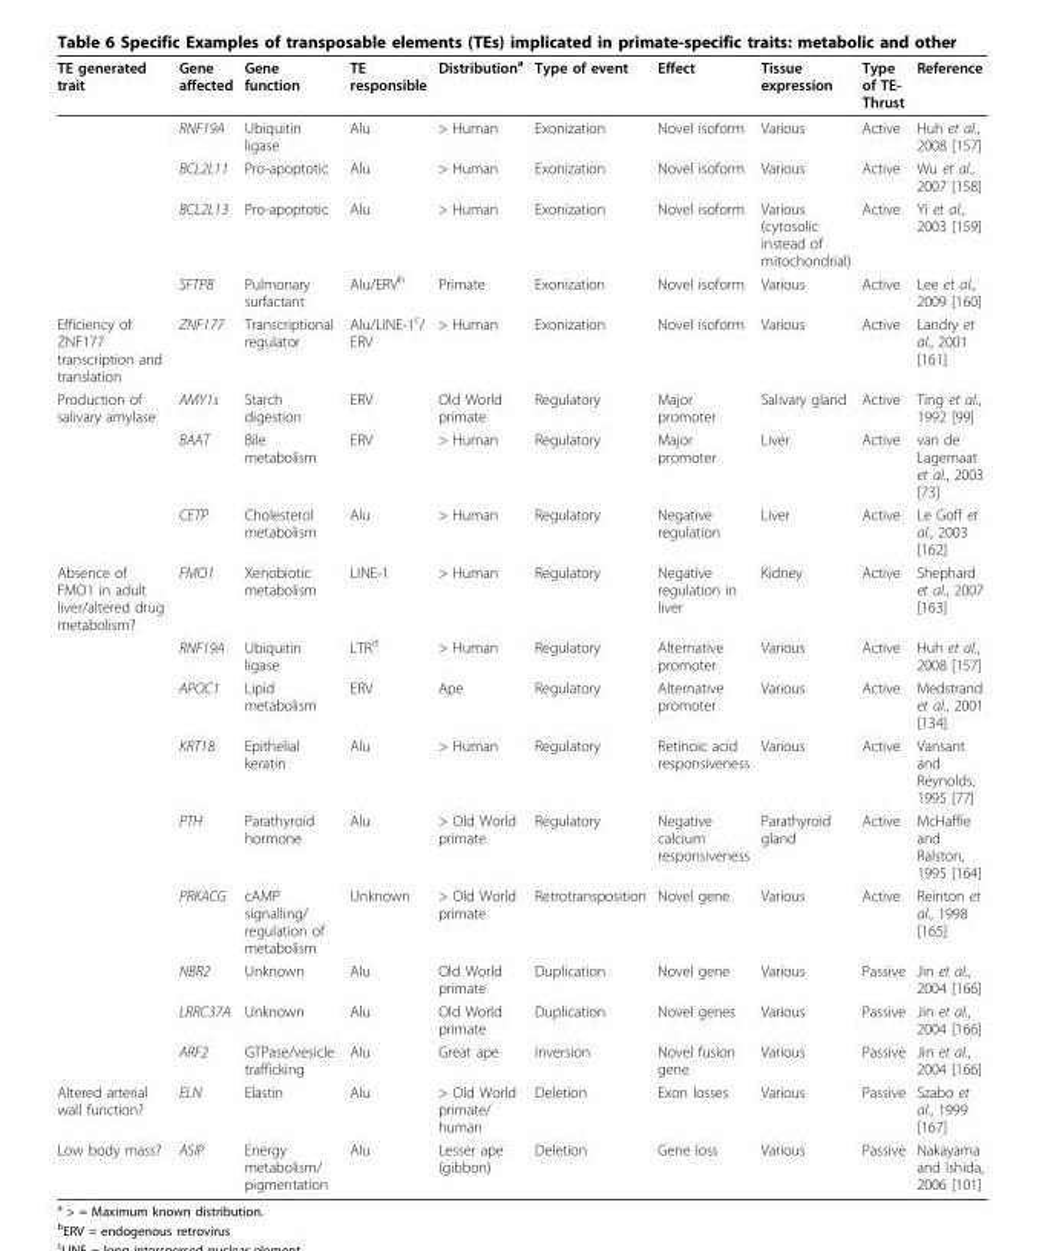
<table><thead><tr><td>TE generated trait</td><td>Gene affected</td><td>Gene function</td><td>TE responsible</td><td>Distribution<sup>a</sup></td><td>Type of event</td><td>Effect</td><td>Tissue expression</td><td>Type of TE- Thrust</td><td>Reference</td></tr></thead><tbody><tr><td></td><td>RNF19A</td><td>Ubiquitin ligase</td><td>Alu</td><td>&gt; Human</td><td>Exonization</td><td>Novel isoform</td><td>Various</td><td>Active</td><td>Huh et al., 2008 [157]</td></tr><tr><td></td><td>BCL2L11</td><td>Pro-apoptotic</td><td>Alu</td><td>&gt; Human</td><td>Exonization</td><td>Novel isoform</td><td>Various</td><td>Active</td><td>Wu et al., 2007 [158]</td></tr><tr><td></td><td>BCL2L13</td><td>Pro-apoptotic</td><td>Alu</td><td>&gt; Human</td><td>Exonization</td><td>Novel isoform</td><td>Various (cytosolic instead of mitochondrial)</td><td>Active</td><td>Yi et al., 2003 [159]</td></tr><tr><td></td><td>SFTPB</td><td>Pulmonary surfactant</td><td>Alu/ERV<sup>b</sup></td><td>Primate</td><td>Exonization</td><td>Novel isoform</td><td>Various</td><td>Active</td><td>Lee et al., 2009 [160]</td></tr><tr><td>Efficiency of ZNF177 transcription and translation</td><td>ZNF177</td><td>Transcriptional regulator</td><td>Alu/LINE-1<sup>c</sup>/ ERV</td><td>&gt; Human</td><td>Exonization</td><td>Novel isoform</td><td>Various</td><td>Active</td><td>Landry et al., 2001 [161]</td></tr><tr><td rowspan="3">Production of salivary amylase</td><td>AMY1s</td><td>Starch digestion</td><td>ERV</td><td>Old World primate</td><td>Regulatory</td><td>Major promoter</td><td>Salivary gland</td><td>Active</td><td>Ting et al., 1992 [99]</td></tr><tr><td>BAAT</td><td>Bile metabolism</td><td>ERV</td><td>&gt; Human</td><td>Regulatory</td><td>Major promoter</td><td>Liver</td><td>Active</td><td>van de Lagemaat et al., 2003 [73]</td></tr><tr><td>CETP</td><td>Cholesterol metabolism</td><td>Alu</td><td>&gt; Human</td><td>Regulatory</td><td>Negative regulation</td><td>Liver</td><td>Active</td><td>Le Goff et al., 2003 [162]</td></tr><tr><td rowspan="9">Absence of FMO1 in adult liver/altered drug metabolism?</td><td>FMO1</td><td>Xenobiotic metabolism</td><td>LINE-1</td><td>&gt; Human</td><td>Regulatory</td><td>Negative regulation in liver</td><td>Kidney</td><td>Active</td><td>Shephard et al., 2007 [163]</td></tr><tr><td>RNF19A</td><td>Ubiquitin ligase</td><td>LTR<sup>d</sup></td><td>&gt; Human</td><td>Regulatory</td><td>Alternative promoter</td><td>Various</td><td>Active</td><td>Huh et al., 2008 [157]</td></tr><tr><td>APOC1</td><td>Lipid metabolism</td><td>ERV</td><td>Ape</td><td>Regulatory</td><td>Alternative promoter</td><td>Various</td><td>Active</td><td>Medstrand et al., 2001 [134]</td></tr><tr><td>KRT18</td><td>Epithelial keratin</td><td>Alu</td><td>&gt; Human</td><td>Regulatory</td><td>Retinoic acid responsiveness</td><td>Various</td><td>Active</td><td>Vansant and Reynolds, 1995 [77]</td></tr><tr><td>PTH</td><td>Parathyroid hormone</td><td>Alu</td><td>&gt; Old World primate</td><td>Regulatory</td><td>Negative calcium responsiveness</td><td>Parathyroid gland</td><td>Active</td><td>McHaffie and Ralston, 1995 [164]</td></tr><tr><td>PRKACG</td><td>cAMP signalling/ regulation of metabolism</td><td>Unknown</td><td>&gt; Old World primate</td><td>Retrotransposition</td><td>Novel gene</td><td>Various</td><td>Active</td><td>Reinton et al., 1998 [165]</td></tr><tr><td>NBR2</td><td>Unknown</td><td>Alu</td><td>Old World primate</td><td>Duplication</td><td>Novel gene</td><td>Various</td><td>Passive</td><td>Jin et al., 2004 [166]</td></tr><tr><td>LRRC37A</td><td>Unknown</td><td>Alu</td><td>Old World primate</td><td>Duplication</td><td>Novel genes</td><td>Various</td><td>Passive</td><td>Jin et al., 2004 [166]</td></tr><tr><td>ARF2</td><td>GTPase/vesicle trafficking</td><td>Alu</td><td>Great ape</td><td>Inversion</td><td>Novel fusion gene</td><td>Various</td><td>Passive</td><td>Jin et al., 2004 [166]</td></tr><tr><td>Altered arterial wall function?</td><td>ELN</td><td>Elastin</td><td>Alu</td><td>&gt; Old World primate/ human</td><td>Deletion</td><td>Exon losses</td><td>Various</td><td>Passive</td><td>Szabo et al., 1999 [167]</td></tr><tr><td>Low body mass?</td><td>ASIP</td><td>Energy metabolism/ pigmentation</td><td>Alu</td><td>Lesser ape (gibbon)</td><td>Deletion</td><td>Gene loss</td><td>Various</td><td>Passive</td><td>Nakayama and Ishida, 2006 [101]</td></tr></tbody></table>